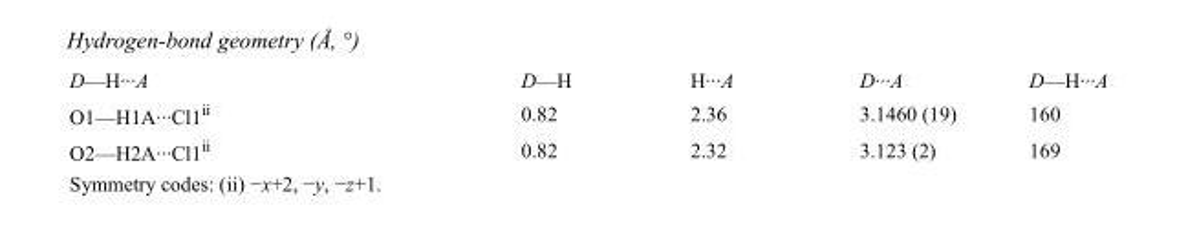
<table><tbody><tr><td>D—H···A</td><td>D—H</td><td>H···A</td><td>D···A</td><td>D—H···A</td></tr><tr><td>O1—H1A···Cl1<sup>ii</sup></td><td>0.82</td><td>2.36</td><td>3.1460 (19)</td><td>160</td></tr><tr><td>O2—H2A···Cl1<sup>ii</sup></td><td>0.82</td><td>2.32</td><td>3.123 (2)</td><td>169</td></tr></tbody></table>